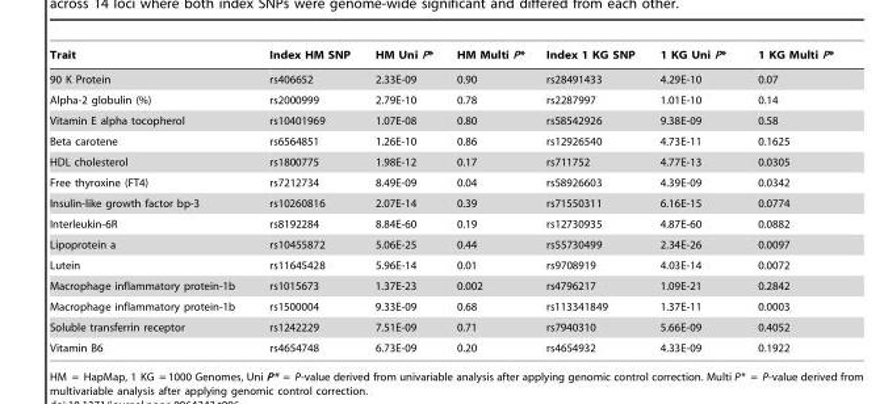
<table><thead><tr><td>Trait</td><td>Index HM SNP</td><td>HM Uni P*</td><td>HM Multi P*</td><td>Index 1 KG SNP</td><td>1 KG Uni P*</td><td>1 KG Multi P*</td></tr></thead><tbody><tr><td>90 K Protein</td><td>rs406652</td><td>2.33E-09</td><td>0.90</td><td>rs28491433</td><td>4.29E-10</td><td>0.07</td></tr><tr><td>Alpha-2 globulin (%)</td><td>rs2000999</td><td>2.79E-10</td><td>0.78</td><td>rs2287997</td><td>1.01E-10</td><td>0.14</td></tr><tr><td>Vitamin E alpha tocopherol</td><td>rs10401969</td><td>1.07E-08</td><td>0.80</td><td>rs58542926</td><td>9.38E-09</td><td>0.58</td></tr><tr><td>Beta carotene</td><td>rs6564851</td><td>1.26E-10</td><td>0.86</td><td>rs12926540</td><td>4.73E-11</td><td>0.1625</td></tr><tr><td>HDL cholesterol</td><td>rs1800775</td><td>1.98E-12</td><td>0.17</td><td>rs711752</td><td>4.77E-13</td><td>0.0305</td></tr><tr><td>Free thyroxine (FT4)</td><td>rs7212734</td><td>8.49E-09</td><td>0.04</td><td>rs58926603</td><td>4.39E-09</td><td>0.0342</td></tr><tr><td>Insulin-like growth factor bp-3</td><td>rs10260816</td><td>2.07E-14</td><td>0.39</td><td>rs71550311</td><td>6.16E-15</td><td>0.0774</td></tr><tr><td>Interleukin-6R</td><td>rs8192284</td><td>8.84E-60</td><td>0.19</td><td>rs12730935</td><td>4.87E-60</td><td>0.0882</td></tr><tr><td>Lipoprotein a</td><td>rs10455872</td><td>5.06E-25</td><td>0.44</td><td>rs55730499</td><td>2.34E-26</td><td>0.0097</td></tr><tr><td>Lutein</td><td>rs11645428</td><td>5.96E-14</td><td>0.01</td><td>rs9708919</td><td>4.03E-14</td><td>0.0072</td></tr><tr><td>Macrophage inflammatory protein-1b</td><td>rs1015673</td><td>1.37E-23</td><td>0.002</td><td>rs4796217</td><td>1.09E-21</td><td>0.2842</td></tr><tr><td>Macrophage inflammatory protein-1b</td><td>rs1500004</td><td>9.33E-09</td><td>0.68</td><td>rs113341849</td><td>1.37E-11</td><td>0.0003</td></tr><tr><td>Soluble transferrin receptor</td><td>rs1242229</td><td>7.51E-09</td><td>0.71</td><td>rs7940310</td><td>5.66E-09</td><td>0.4052</td></tr><tr><td>Vitamin B6</td><td>rs4654748</td><td>6.73E-09</td><td>0.20</td><td>rs4654932</td><td>4.33E-09</td><td>0.1922</td></tr></tbody></table>